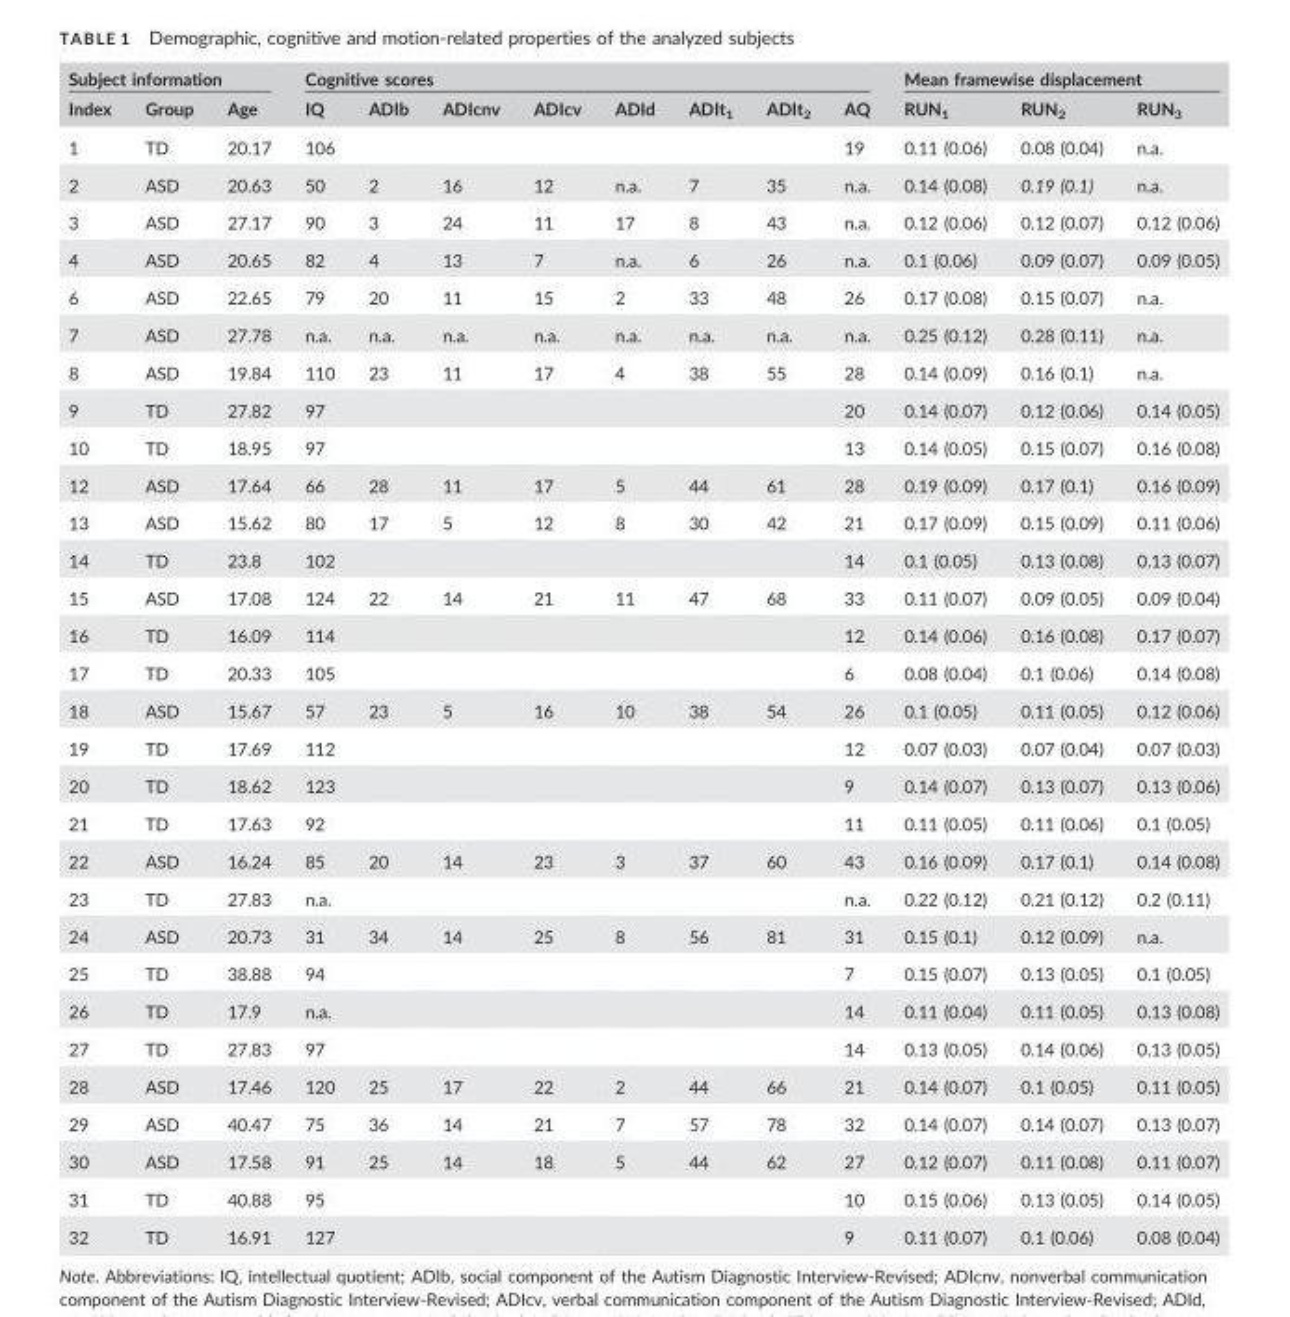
<table><thead><tr><td colspan="3">Subject information</td><td colspan="8">Cognitive scores</td><td colspan="3">Mean framewise displacement</td></tr><tr><td>Index</td><td>Group</td><td>Age</td><td>IQ</td><td>ADIb</td><td>ADIcnv</td><td>ADIcv</td><td>ADId</td><td>ADIt<sub>1</sub></td><td>ADIt<sub>2</sub></td><td>AQ</td><td>RUN<sub>1</sub></td><td>RUN<sub>2</sub></td><td>RUN<sub>3</sub></td></tr></thead><tbody><tr><td>1</td><td>TD</td><td>20.17</td><td>106</td><td></td><td></td><td></td><td></td><td></td><td></td><td>19</td><td>0.11 (0.06)</td><td>0.08 (0.04)</td><td>n.a.</td></tr><tr><td>2</td><td>ASD</td><td>20.63</td><td>50</td><td>2</td><td>16</td><td>12</td><td>n.a.</td><td>7</td><td>35</td><td>n.a.</td><td>0.14 (0.08)</td><td>0.19 (0.1)</td><td>n.a.</td></tr><tr><td>3</td><td>ASD</td><td>27.17</td><td>90</td><td>3</td><td>24</td><td>11</td><td>17</td><td>8</td><td>43</td><td>n.a.</td><td>0.12 (0.06)</td><td>0.12 (0.07)</td><td>0.12 (0.06)</td></tr><tr><td>4</td><td>ASD</td><td>20.65</td><td>82</td><td>4</td><td>13</td><td>7</td><td>n.a.</td><td>6</td><td>26</td><td>n.a.</td><td>0.1 (0.06)</td><td>0.09 (0.07)</td><td>0.09 (0.05)</td></tr><tr><td>6</td><td>ASD</td><td>22.65</td><td>79</td><td>20</td><td>11</td><td>15</td><td>2</td><td>33</td><td>48</td><td>26</td><td>0.17 (0.08)</td><td>0.15 (0.07)</td><td>n.a.</td></tr><tr><td>7</td><td>ASD</td><td>27.78</td><td>n.a.</td><td>n.a.</td><td>n.a.</td><td>n.a.</td><td>n.a.</td><td>n.a.</td><td>n.a.</td><td>n.a.</td><td>0.25 (0.12)</td><td>0.28 (0.11)</td><td>n.a.</td></tr><tr><td>8</td><td>ASD</td><td>19.84</td><td>110</td><td>23</td><td>11</td><td>17</td><td>4</td><td>38</td><td>55</td><td>28</td><td>0.14 (0.09)</td><td>0.16 (0.1)</td><td>n.a.</td></tr><tr><td>9</td><td>TD</td><td>27.82</td><td>97</td><td></td><td></td><td></td><td></td><td></td><td></td><td>20</td><td>0.14 (0.07)</td><td>0.12 (0.06)</td><td>0.14 (0.05)</td></tr><tr><td>10</td><td>TD</td><td>18.95</td><td>97</td><td></td><td></td><td></td><td></td><td></td><td></td><td>13</td><td>0.14 (0.05)</td><td>0.15 (0.07)</td><td>0.16 (0.08)</td></tr><tr><td>12</td><td>ASD</td><td>17.64</td><td>66</td><td>28</td><td>11</td><td>17</td><td>5</td><td>44</td><td>61</td><td>28</td><td>0.19 (0.09)</td><td>0.17 (0.1)</td><td>0.16 (0.09)</td></tr><tr><td>13</td><td>ASD</td><td>15.62</td><td>80</td><td>17</td><td>5</td><td>12</td><td>8</td><td>30</td><td>42</td><td>21</td><td>0.17 (0.09)</td><td>0.15 (0.09)</td><td>0.11 (0.06)</td></tr><tr><td>14</td><td>TD</td><td>23.8</td><td>102</td><td></td><td></td><td></td><td></td><td></td><td></td><td>14</td><td>0.1 (0.05)</td><td>0.13 (0.08)</td><td>0.13 (0.07)</td></tr><tr><td>15</td><td>ASD</td><td>17.08</td><td>124</td><td>22</td><td>14</td><td>21</td><td>11</td><td>47</td><td>68</td><td>33</td><td>0.11 (0.07)</td><td>0.09 (0.05)</td><td>0.09 (0.04)</td></tr><tr><td>16</td><td>TD</td><td>16.09</td><td>114</td><td></td><td></td><td></td><td></td><td></td><td></td><td>12</td><td>0.14 (0.06)</td><td>0.16 (0.08)</td><td>0.17 (0.07)</td></tr><tr><td>17</td><td>TD</td><td>20.33</td><td>105</td><td></td><td></td><td></td><td></td><td></td><td></td><td>6</td><td>0.08 (0.04)</td><td>0.1 (0.06)</td><td>0.14 (0.08)</td></tr><tr><td>18</td><td>ASD</td><td>15.67</td><td>57</td><td>23</td><td>5</td><td>16</td><td>10</td><td>38</td><td>54</td><td>26</td><td>0.1 (0.05)</td><td>0.11 (0.05)</td><td>0.12 (0.06)</td></tr><tr><td>19</td><td>TD</td><td>17.69</td><td>112</td><td></td><td></td><td></td><td></td><td></td><td></td><td>12</td><td>0.07 (0.03)</td><td>0.07 (0.04)</td><td>0.07 (0.03)</td></tr><tr><td>20</td><td>TD</td><td>18.62</td><td>123</td><td></td><td></td><td></td><td></td><td></td><td></td><td>9</td><td>0.14 (0.07)</td><td>0.13 (0.07)</td><td>0.13 (0.06)</td></tr><tr><td>21</td><td>TD</td><td>17.63</td><td>92</td><td></td><td></td><td></td><td></td><td></td><td></td><td>11</td><td>0.11 (0.05)</td><td>0.11 (0.06)</td><td>0.1 (0.05)</td></tr><tr><td>22</td><td>ASD</td><td>16.24</td><td>85</td><td>20</td><td>14</td><td>23</td><td>3</td><td>37</td><td>60</td><td>43</td><td>0.16 (0.09)</td><td>0.17 (0.1)</td><td>0.14 (0.08)</td></tr><tr><td>23</td><td>TD</td><td>27.83</td><td>n.a.</td><td></td><td></td><td></td><td></td><td></td><td></td><td>n.a.</td><td>0.22 (0.12)</td><td>0.21 (0.12)</td><td>0.2 (0.11)</td></tr><tr><td>24</td><td>ASD</td><td>20.73</td><td>31</td><td>34</td><td>14</td><td>25</td><td>8</td><td>56</td><td>81</td><td>31</td><td>0.15 (0.1)</td><td>0.12 (0.09)</td><td>n.a.</td></tr><tr><td>25</td><td>TD</td><td>38.88</td><td>94</td><td></td><td></td><td></td><td></td><td></td><td></td><td>7</td><td>0.15 (0.07)</td><td>0.13 (0.05)</td><td>0.1 (0.05)</td></tr><tr><td>26</td><td>TD</td><td>17.9</td><td>n.a.</td><td></td><td></td><td></td><td></td><td></td><td></td><td>14</td><td>0.11 (0.04)</td><td>0.11 (0.05)</td><td>0.13 (0.08)</td></tr><tr><td>27</td><td>TD</td><td>27.83</td><td>97</td><td></td><td></td><td></td><td></td><td></td><td></td><td>14</td><td>0.13 (0.05)</td><td>0.14 (0.06)</td><td>0.13 (0.05)</td></tr><tr><td>28</td><td>ASD</td><td>17.46</td><td>120</td><td>25</td><td>17</td><td>22</td><td>2</td><td>44</td><td>66</td><td>21</td><td>0.14 (0.07)</td><td>0.1 (0.05)</td><td>0.11 (0.05)</td></tr><tr><td>29</td><td>ASD</td><td>40.47</td><td>75</td><td>36</td><td>14</td><td>21</td><td>7</td><td>57</td><td>78</td><td>32</td><td>0.14 (0.07)</td><td>0.14 (0.07)</td><td>0.13 (0.07)</td></tr><tr><td>30</td><td>ASD</td><td>17.58</td><td>91</td><td>25</td><td>14</td><td>18</td><td>5</td><td>44</td><td>62</td><td>27</td><td>0.12 (0.07)</td><td>0.11 (0.08)</td><td>0.11 (0.07)</td></tr><tr><td>31</td><td>TD</td><td>40.88</td><td>95</td><td></td><td></td><td></td><td></td><td></td><td></td><td>10</td><td>0.15 (0.06)</td><td>0.13 (0.05)</td><td>0.14 (0.05)</td></tr><tr><td>32</td><td>TD</td><td>16.91</td><td>127</td><td></td><td></td><td></td><td></td><td></td><td></td><td>9</td><td>0.11 (0.07)</td><td>0.1 (0.06)</td><td>0.08 (0.04)</td></tr></tbody></table>